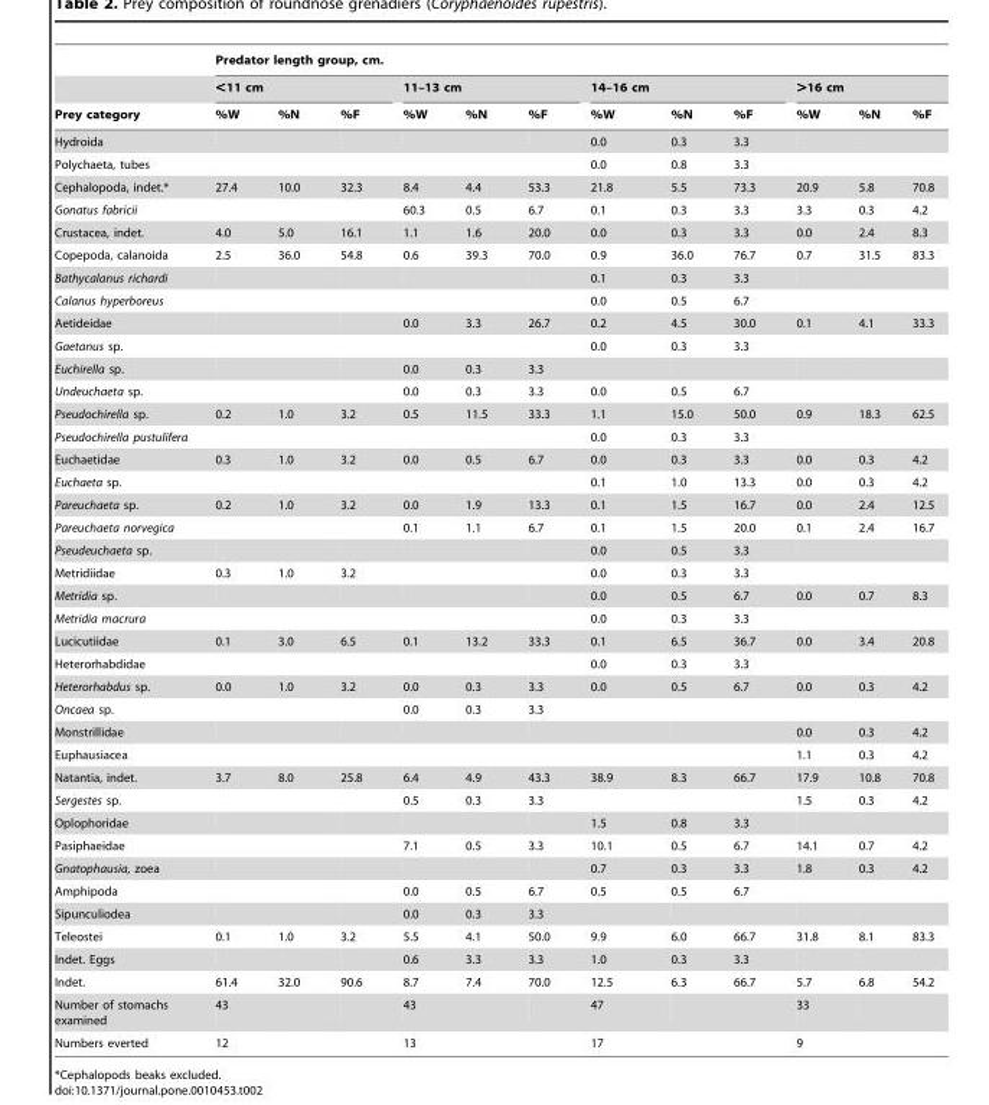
<table><thead><tr><td rowspan="3">Prey category</td><td colspan="12">Predator length group, cm.</td></tr><tr><td colspan="3">&lt;11 cm</td><td colspan="3">11–13 cm</td><td colspan="3">14–16 cm</td><td colspan="3">&gt;16 cm</td></tr><tr><td>%W</td><td>%N</td><td>%F</td><td>%W</td><td>%N</td><td>%F</td><td>%W</td><td>%N</td><td>%F</td><td>%W</td><td>%N</td><td>%F</td></tr></thead><tbody><tr><td>Hydroida</td><td></td><td></td><td></td><td></td><td></td><td></td><td>0.0</td><td>0.3</td><td>3.3</td><td></td><td></td><td></td></tr><tr><td>Polychaeta, tubes</td><td></td><td></td><td></td><td></td><td></td><td></td><td>0.0</td><td>0.8</td><td>3.3</td><td></td><td></td><td></td></tr><tr><td>Cephalopoda, indet.*</td><td>27.4</td><td>10.0</td><td>32.3</td><td>8.4</td><td>4.4</td><td>53.3</td><td>21.8</td><td>5.5</td><td>73.3</td><td>20.9</td><td>5.8</td><td>70.8</td></tr><tr><td>Gonatus fabricii</td><td></td><td></td><td></td><td>60.3</td><td>0.5</td><td>6.7</td><td>0.1</td><td>0.3</td><td>3.3</td><td>3.3</td><td>0.3</td><td>4.2</td></tr><tr><td>Crustacea, indet.</td><td>4.0</td><td>5.0</td><td>16.1</td><td>1.1</td><td>1.6</td><td>20.0</td><td>0.0</td><td>0.3</td><td>3.3</td><td>0.0</td><td>2.4</td><td>8.3</td></tr><tr><td>Copepoda, calanoida</td><td>2.5</td><td>36.0</td><td>54.8</td><td>0.6</td><td>39.3</td><td>70.0</td><td>0.9</td><td>36.0</td><td>76.7</td><td>0.7</td><td>31.5</td><td>83.3</td></tr><tr><td>Bathycalanus richardi</td><td></td><td></td><td></td><td></td><td></td><td></td><td>0.1</td><td>0.3</td><td>3.3</td><td></td><td></td><td></td></tr><tr><td>Calanus hyperboreus</td><td></td><td></td><td></td><td></td><td></td><td></td><td>0.0</td><td>0.5</td><td>6.7</td><td></td><td></td><td></td></tr><tr><td>Aetideidae</td><td></td><td></td><td></td><td>0.0</td><td>3.3</td><td>26.7</td><td>0.2</td><td>4.5</td><td>30.0</td><td>0.1</td><td>4.1</td><td>33.3</td></tr><tr><td>Gaetanus sp.</td><td></td><td></td><td></td><td></td><td></td><td></td><td>0.0</td><td>0.3</td><td>3.3</td><td></td><td></td><td></td></tr><tr><td>Euchirella sp.</td><td></td><td></td><td></td><td>0.0</td><td>0.3</td><td>3.3</td><td></td><td></td><td></td><td></td><td></td><td></td></tr><tr><td>Undeuchaeta sp.</td><td></td><td></td><td></td><td>0.0</td><td>0.3</td><td>3.3</td><td>0.0</td><td>0.5</td><td>6.7</td><td></td><td></td><td></td></tr><tr><td>Pseudochirella sp.</td><td>0.2</td><td>1.0</td><td>3.2</td><td>0.5</td><td>11.5</td><td>33.3</td><td>1.1</td><td>15.0</td><td>50.0</td><td>0.9</td><td>18.3</td><td>62.5</td></tr><tr><td>Pseudochirella pustulifera</td><td></td><td></td><td></td><td></td><td></td><td></td><td>0.0</td><td>0.3</td><td>3.3</td><td></td><td></td><td></td></tr><tr><td>Euchaetidae</td><td>0.3</td><td>1.0</td><td>3.2</td><td>0.0</td><td>0.5</td><td>6.7</td><td>0.0</td><td>0.3</td><td>3.3</td><td>0.0</td><td>0.3</td><td>4.2</td></tr><tr><td>Euchaeta sp.</td><td></td><td></td><td></td><td></td><td></td><td></td><td>0.1</td><td>1.0</td><td>13.3</td><td>0.0</td><td>0.3</td><td>4.2</td></tr><tr><td>Pareuchaeta sp.</td><td>0.2</td><td>1.0</td><td>3.2</td><td>0.0</td><td>1.9</td><td>13.3</td><td>0.1</td><td>1.5</td><td>16.7</td><td>0.0</td><td>2.4</td><td>12.5</td></tr><tr><td>Pareuchaeta norvegica</td><td></td><td></td><td></td><td>0.1</td><td>1.1</td><td>6.7</td><td>0.1</td><td>1.5</td><td>20.0</td><td>0.1</td><td>2.4</td><td>16.7</td></tr><tr><td>Pseudeuchaeta sp.</td><td></td><td></td><td></td><td></td><td></td><td></td><td>0.0</td><td>0.5</td><td>3.3</td><td></td><td></td><td></td></tr><tr><td>Metridiidae</td><td>0.3</td><td>1.0</td><td>3.2</td><td></td><td></td><td></td><td>0.0</td><td>0.3</td><td>3.3</td><td></td><td></td><td></td></tr><tr><td>Metridia sp.</td><td></td><td></td><td></td><td></td><td></td><td></td><td>0.0</td><td>0.5</td><td>6.7</td><td>0.0</td><td>0.7</td><td>8.3</td></tr><tr><td>Metridia macrura</td><td></td><td></td><td></td><td></td><td></td><td></td><td>0.0</td><td>0.3</td><td>3.3</td><td></td><td></td><td></td></tr><tr><td>Lucicutiidae</td><td>0.1</td><td>3.0</td><td>6.5</td><td>0.1</td><td>13.2</td><td>33.3</td><td>0.1</td><td>6.5</td><td>36.7</td><td>0.0</td><td>3.4</td><td>20.8</td></tr><tr><td>Heterorhabdidae</td><td></td><td></td><td></td><td></td><td></td><td></td><td>0.0</td><td>0.3</td><td>3.3</td><td></td><td></td><td></td></tr><tr><td>Heterorhabdus sp.</td><td>0.0</td><td>1.0</td><td>3.2</td><td>0.0</td><td>0.3</td><td>3.3</td><td>0.0</td><td>0.5</td><td>6.7</td><td>0.0</td><td>0.3</td><td>4.2</td></tr><tr><td>Oncaea sp.</td><td></td><td></td><td></td><td>0.0</td><td>0.3</td><td>3.3</td><td></td><td></td><td></td><td></td><td></td><td></td></tr><tr><td>Monstrillidae</td><td></td><td></td><td></td><td></td><td></td><td></td><td></td><td></td><td></td><td>0.0</td><td>0.3</td><td>4.2</td></tr><tr><td>Euphausiacea</td><td></td><td></td><td></td><td></td><td></td><td></td><td></td><td></td><td></td><td>1.1</td><td>0.3</td><td>4.2</td></tr><tr><td>Natantia, indet.</td><td>3.7</td><td>8.0</td><td>25.8</td><td>6.4</td><td>4.9</td><td>43.3</td><td>38.9</td><td>8.3</td><td>66.7</td><td>17.9</td><td>10.8</td><td>70.8</td></tr><tr><td>Sergestes sp.</td><td></td><td></td><td></td><td>0.5</td><td>0.3</td><td>3.3</td><td></td><td></td><td></td><td>1.5</td><td>0.3</td><td>4.2</td></tr><tr><td>Oplophoridae</td><td></td><td></td><td></td><td></td><td></td><td></td><td>1.5</td><td>0.8</td><td>3.3</td><td></td><td></td><td></td></tr><tr><td>Pasiphaeidae</td><td></td><td></td><td></td><td>7.1</td><td>0.5</td><td>3.3</td><td>10.1</td><td>0.5</td><td>6.7</td><td>14.1</td><td>0.7</td><td>4.2</td></tr><tr><td>Gnatophausia, zoea</td><td></td><td></td><td></td><td></td><td></td><td></td><td>0.7</td><td>0.3</td><td>3.3</td><td>1.8</td><td>0.3</td><td>4.2</td></tr><tr><td>Amphipoda</td><td></td><td></td><td></td><td>0.0</td><td>0.5</td><td>6.7</td><td>0.5</td><td>0.5</td><td>6.7</td><td></td><td></td><td></td></tr><tr><td>Sipunculiodea</td><td></td><td></td><td></td><td>0.0</td><td>0.3</td><td>3.3</td><td></td><td></td><td></td><td></td><td></td><td></td></tr><tr><td>Teleostei</td><td>0.1</td><td>1.0</td><td>3.2</td><td>5.5</td><td>4.1</td><td>50.0</td><td>9.9</td><td>6.0</td><td>66.7</td><td>31.8</td><td>8.1</td><td>83.3</td></tr><tr><td>Indet. Eggs</td><td></td><td></td><td></td><td>0.6</td><td>3.3</td><td>3.3</td><td>1.0</td><td>0.3</td><td>3.3</td><td></td><td></td><td></td></tr><tr><td>Indet.</td><td>61.4</td><td>32.0</td><td>90.6</td><td>8.7</td><td>7.4</td><td>70.0</td><td>12.5</td><td>6.3</td><td>66.7</td><td>5.7</td><td>6.8</td><td>54.2</td></tr><tr><td>Number of stomachs examined</td><td>43</td><td></td><td></td><td>43</td><td></td><td></td><td>47</td><td></td><td></td><td>33</td><td></td><td></td></tr><tr><td>Numbers everted</td><td>12</td><td></td><td></td><td>13</td><td></td><td></td><td>17</td><td></td><td></td><td>9</td><td></td><td></td></tr></tbody></table>